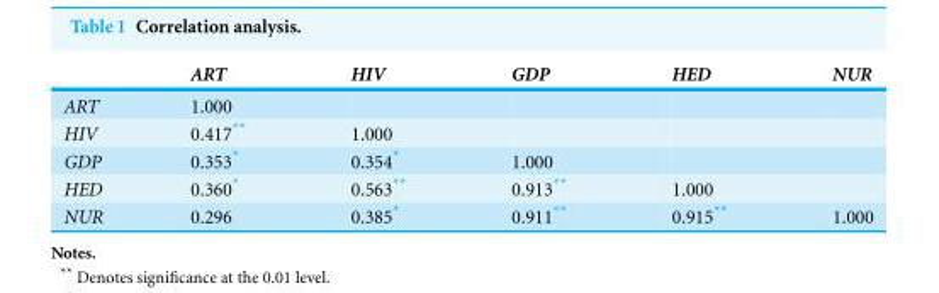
<table><thead><tr><td></td><td>ART</td><td>HIV</td><td>GDP</td><td>HED</td><td>NUR</td></tr></thead><tbody><tr><td>ART</td><td>1.000</td><td></td><td></td><td></td><td></td></tr><tr><td>HIV</td><td>0.417**</td><td>1.000</td><td></td><td></td><td></td></tr><tr><td>GDP</td><td>0.353*</td><td>0.354*</td><td>1.000</td><td></td><td></td></tr><tr><td>HED</td><td>0.360*</td><td>0.563**</td><td>0.913**</td><td>1.000</td><td></td></tr><tr><td>NUR</td><td>0.296</td><td>0.385*</td><td>0.911**</td><td>0.915**</td><td>1.000</td></tr></tbody></table>